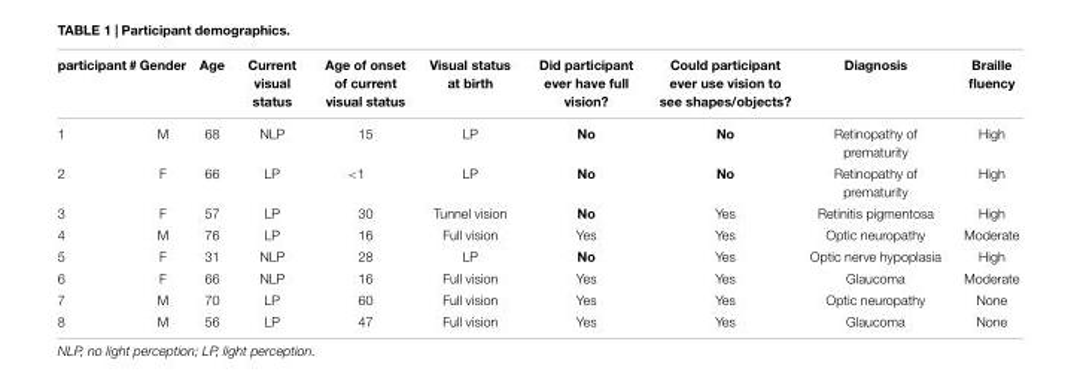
<table><thead><tr><td>participant #</td><td>Gender</td><td>Age</td><td>Current visual status</td><td>Age of onset of current visual status</td><td>Visual status at birth</td><td>Did participant ever have full vision?</td><td>Could participant ever use vision to see shapes/objects?</td><td>Diagnosis</td><td>Braille fluency</td></tr></thead><tbody><tr><td>1</td><td>M</td><td>68</td><td>NLP</td><td>15</td><td>LP</td><td>No</td><td>No</td><td>Retinopathy of prematurity</td><td>High</td></tr><tr><td>2</td><td>F</td><td>66</td><td>LP</td><td>&lt;1</td><td>LP</td><td>No</td><td>No</td><td>Retinopathy of prematurity</td><td>High</td></tr><tr><td>3</td><td>F</td><td>57</td><td>LP</td><td>30</td><td>Tunnel vision</td><td>No</td><td>Yes</td><td>Retinitis pigmentosa</td><td>High</td></tr><tr><td>4</td><td>M</td><td>76</td><td>LP</td><td>16</td><td>Full vision</td><td>Yes</td><td>Yes</td><td>Optic neuropathy</td><td>Moderate</td></tr><tr><td>5</td><td>F</td><td>31</td><td>NLP</td><td>28</td><td>LP</td><td>No</td><td>Yes</td><td>Optic nerve hypoplasia</td><td>High</td></tr><tr><td>6</td><td>F</td><td>66</td><td>NLP</td><td>16</td><td>Full vision</td><td>Yes</td><td>Yes</td><td>Glaucoma</td><td>Moderate</td></tr><tr><td>7</td><td>M</td><td>70</td><td>LP</td><td>60</td><td>Full vision</td><td>Yes</td><td>Yes</td><td>Optic neuropathy</td><td>None</td></tr><tr><td>8</td><td>M</td><td>56</td><td>LP</td><td>47</td><td>Full vision</td><td>Yes</td><td>Yes</td><td>Glaucoma</td><td>None</td></tr></tbody></table>